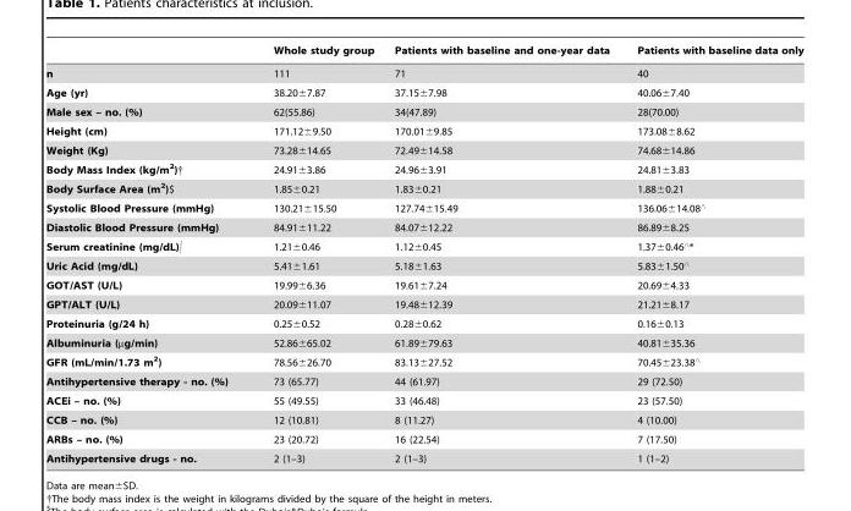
<table><thead><tr><td></td><td>Whole study group</td><td>Patients with baseline and one-year data</td><td>Patients with baseline data only</td></tr></thead><tbody><tr><td>n</td><td>111</td><td>71</td><td>40</td></tr><tr><td>Age (yr)</td><td>38.20±7.87</td><td>37.15±7.98</td><td>40.06±7.40</td></tr><tr><td>Male sex – no. (%)</td><td>62(55.86)</td><td>34(47.89)</td><td>28(70.00)</td></tr><tr><td>Height (cm)</td><td>171.12±9.50</td><td>170.01±9.85</td><td>173.08±8.62</td></tr><tr><td>Weight (Kg)</td><td>73.28±14.65</td><td>72.49±14.58</td><td>74.68±14.86</td></tr><tr><td>Body Mass Index (kg/m<sup>2</sup>)†</td><td>24.91±3.86</td><td>24.96±3.91</td><td>24.81±3.83</td></tr><tr><td>Body Surface Area (m<sup>2</sup>)$</td><td>1.85±0.21</td><td>1.83±0.21</td><td>1.88±0.21</td></tr><tr><td>Systolic Blood Pressure (mmHg)</td><td>130.21±15.50</td><td>127.74±15.49</td><td>136.06614.08‘</td></tr><tr><td>Diastolic Blood Pressure (mmHg)</td><td>84.91±11.22</td><td>84.07±12.22</td><td>86.89±8.25</td></tr><tr><td>Serum creatinine (mg/dL)∫</td><td>1.21±0.46</td><td>1.12±0.45</td><td>1.3760.46‘*</td></tr><tr><td>Uric Acid (mg/dL)</td><td>5.41±1.61</td><td>5.18±1.63</td><td>5.8361.50‘</td></tr><tr><td>GOT/AST (U/L)</td><td>19.99±6.36</td><td>19.61±7.24</td><td>20.69±4.33</td></tr><tr><td>GPT/ALT (U/L)</td><td>20.09±11.07</td><td>19.48±12.39</td><td>21.21±8.17</td></tr><tr><td>Proteinuria (g/24 h)</td><td>0.25±0.52</td><td>0.28±0.62</td><td>0.16±0.13</td></tr><tr><td>Albuminuria (µg/min)</td><td>52.86±65.02</td><td>61.89±79.63</td><td>40.81±35.36</td></tr><tr><td>GFR (mL/min/1.73 m<sup>2</sup>)</td><td>78.56±26.70</td><td>83.13±27.52</td><td>70.45623.38‘</td></tr><tr><td>Antihypertensive therapy - no. (%)</td><td>73 (65.77)</td><td>44 (61.97)</td><td>29 (72.50)</td></tr><tr><td>ACEi – no. (%)</td><td>55 (49.55)</td><td>33 (46.48)</td><td>23 (57.50)</td></tr><tr><td>CCB – no. (%)</td><td>12 (10.81)</td><td>8 (11.27)</td><td>4 (10.00)</td></tr><tr><td>ARBs – no. (%)</td><td>23 (20.72)</td><td>16 (22.54)</td><td>7 (17.50)</td></tr><tr><td>Antihypertensive drugs - no.</td><td>2 (1–3)</td><td>2 (1–3)</td><td>1 (1–2)</td></tr></tbody></table>